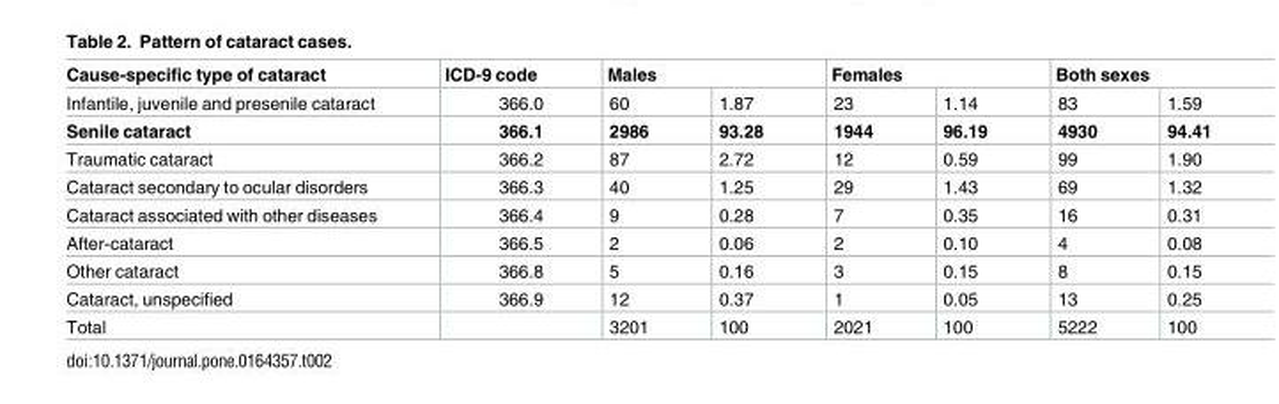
<table><thead><tr><td rowspan="2">Cause-specific type of cataract Infantile, juvenile and presenile cataract</td><td rowspan="2">ICD-9 code 366.0</td><td colspan="2">Males</td><td colspan="2">Females</td><td colspan="2">Both sexes</td></tr><tr><td>60</td><td>1.87</td><td>23</td><td>1.14</td><td>83</td><td>1.59</td></tr></thead><tbody><tr><td>Senile cataract</td><td>366.1</td><td>2986</td><td>93.28</td><td>1944</td><td>96.19</td><td>4930</td><td>94.41</td></tr><tr><td>Traumatic cataract</td><td>366.2</td><td>87</td><td>2.72</td><td>12</td><td>0.59</td><td>99</td><td>1.90</td></tr><tr><td>Cataract secondary to ocular disorders</td><td>366.3</td><td>40</td><td>1.25</td><td>29</td><td>1.43</td><td>69</td><td>1.32</td></tr><tr><td>Cataract associated with other diseases</td><td>366.4</td><td>9</td><td>0.28</td><td>7</td><td>0.35</td><td>16</td><td>0.31</td></tr><tr><td>After-cataract</td><td>366.5</td><td>2</td><td>0.06</td><td>2</td><td>0.10</td><td>4</td><td>0.08</td></tr><tr><td>Other cataract</td><td>366.8</td><td>5</td><td>0.16</td><td>3</td><td>0.15</td><td>8</td><td>0.15</td></tr><tr><td>Cataract, unspecified</td><td>366.9</td><td>12</td><td>0.37</td><td>1</td><td>0.05</td><td>13</td><td>0.25</td></tr><tr><td>Total</td><td></td><td>3201</td><td>100</td><td>2021</td><td>100</td><td>5222</td><td>100</td></tr></tbody></table>